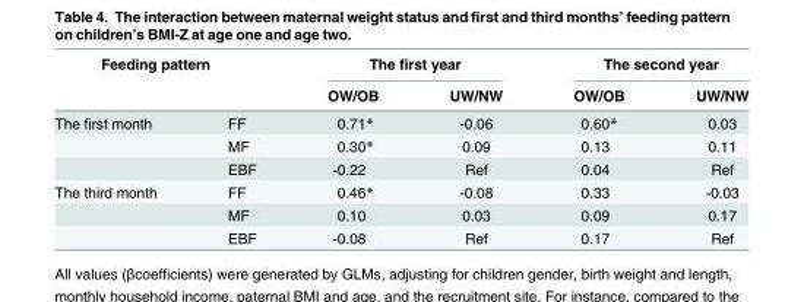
<table><thead><tr><td rowspan="2" colspan="2">Feeding pattern</td><td colspan="2">The first year</td><td colspan="2">The second year</td></tr><tr><td rowspan="2">OW/OB 0.71*</td><td rowspan="2">UW/NW -0.06</td><td rowspan="2">OW/OB 0.60*</td><td rowspan="2">UW/NW 0.03</td></tr><tr><td>The first month</td><td>FF</td></tr></thead><tbody><tr><td></td><td>MF</td><td>0.30*</td><td>0.09</td><td>0.13</td><td>0.11</td></tr><tr><td></td><td>EBF</td><td>-0.22</td><td>Ref</td><td>0.04</td><td>Ref</td></tr><tr><td rowspan="3">The third month</td><td>FF</td><td>0.46*</td><td>-0.08</td><td>0.33</td><td>-0.03</td></tr><tr><td>MF</td><td>0.10</td><td>0.03</td><td>0.09</td><td>0.17</td></tr><tr><td>EBF</td><td>-0.08</td><td>Ref</td><td>0.17</td><td>Ref</td></tr></tbody></table>